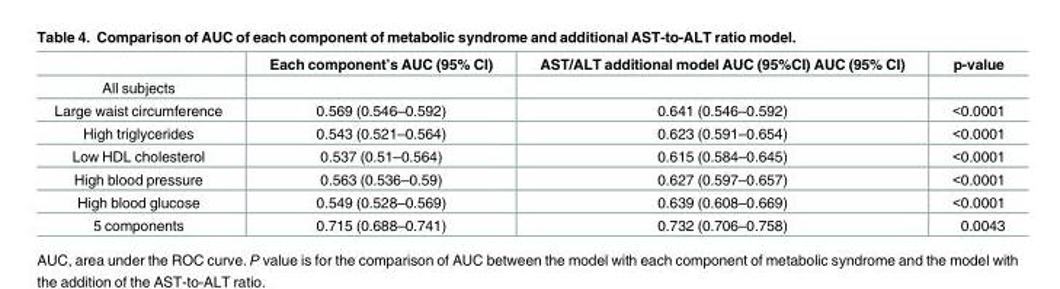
<table><thead><tr><td></td><td>Each component’s AUC (95% CI)</td><td>AST/ALT additional model AUC (95%CI) AUC (95% CI)</td><td>p-value</td></tr></thead><tbody><tr><td colspan="4">All subjects</td></tr><tr><td>Large waist circumference</td><td>0.569 (0.546–0.592)</td><td>0.641 (0.546–0.592)</td><td>&lt;0.0001</td></tr><tr><td>High triglycerides</td><td>0.543 (0.521–0.564)</td><td>0.623 (0.591–0.654)</td><td>&lt;0.0001</td></tr><tr><td>Low HDL cholesterol</td><td>0.537 (0.51–0.564)</td><td>0.615 (0.584–0.645)</td><td>&lt;0.0001</td></tr><tr><td>High blood pressure</td><td>0.563 (0.536–0.59)</td><td>0.627 (0.597–0.657)</td><td>&lt;0.0001</td></tr><tr><td>High blood glucose</td><td>0.549 (0.528–0.569)</td><td>0.639 (0.608–0.669)</td><td>&lt;0.0001</td></tr><tr><td>5 components</td><td>0.715 (0.688–0.741)</td><td>0.732 (0.706–0.758)</td><td>0.0043</td></tr></tbody></table>